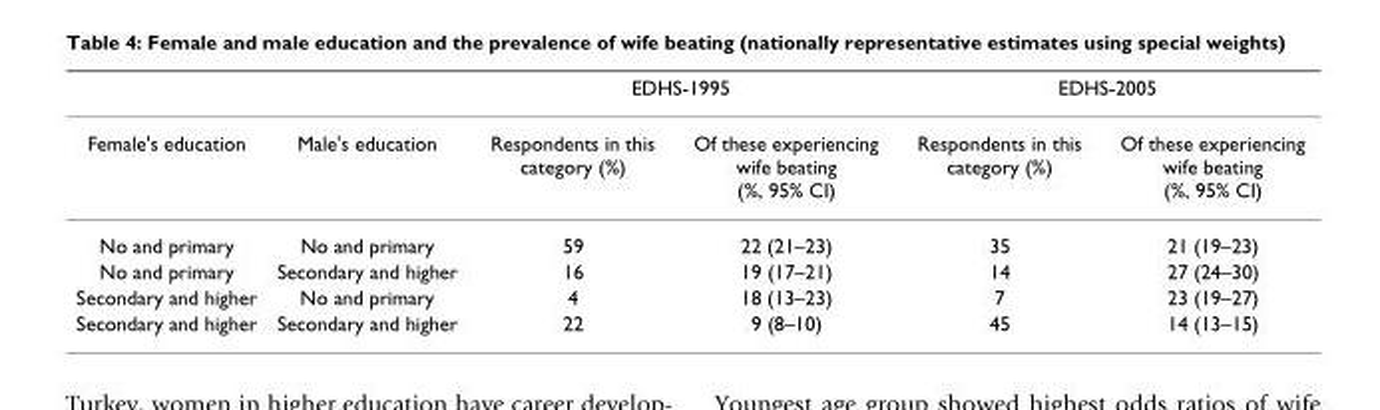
<table><thead><tr><td rowspan="2">Female&#x27;s education</td><td rowspan="2">Male&#x27;s education</td><td colspan="2">EDHS-1995</td><td colspan="2">EDHS-2005</td></tr><tr><td>Respondents in this category (%)</td><td>Of these experiencing wife beating (%, 95% CI)</td><td>Respondents in this category (%)</td><td>Of these experiencing wife beating (%, 95% CI)</td></tr></thead><tbody><tr><td>No and primary</td><td>No and primary</td><td>59</td><td>22 (21–23)</td><td>35</td><td>21 (19–23)</td></tr><tr><td>No and primary</td><td>Secondary and higher</td><td>16</td><td>19 (17–21)</td><td>14</td><td>27 (24–30)</td></tr><tr><td>Secondary and higher</td><td>No and primary</td><td>4</td><td>18 (13–23)</td><td>7</td><td>23 (19–27)</td></tr><tr><td>Secondary and higher</td><td>Secondary and higher</td><td>22</td><td>9 (8–10)</td><td>45</td><td>14 (13–15)</td></tr></tbody></table>